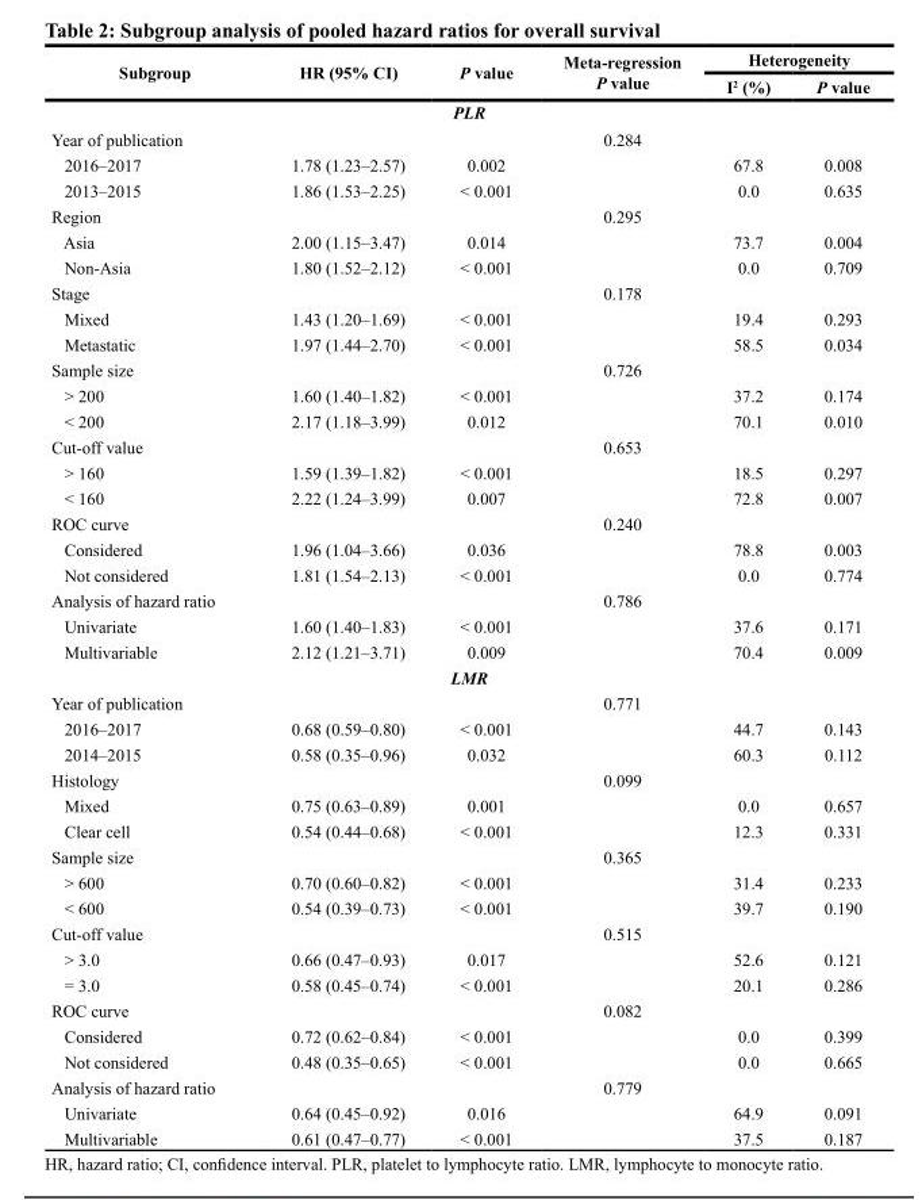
<table><thead><tr><td rowspan="2">Subgroup</td><td rowspan="2">HR (95% CI)</td><td rowspan="2">P value</td><td rowspan="2">Meta-regression P value</td><td colspan="2">Heterogeneity</td></tr><tr><td>I<sup>2</sup> (%)</td><td>P value</td></tr></thead><tbody><tr><td colspan="6">PLR</td></tr><tr><td>Year of publication</td><td></td><td></td><td>0.284</td><td></td><td></td></tr><tr><td>2016–2017</td><td>1.78 (1.23–2.57)</td><td>0.002</td><td></td><td>67.8</td><td>0.008</td></tr><tr><td>2013–2015</td><td>1.86 (1.53–2.25)</td><td>&lt; 0.001</td><td></td><td>0.0</td><td>0.635</td></tr><tr><td>Region</td><td></td><td></td><td>0.295</td><td></td><td></td></tr><tr><td>Asia</td><td>2.00 (1.15–3.47)</td><td>0.014</td><td></td><td>73.7</td><td>0.004</td></tr><tr><td>Non-Asia</td><td>1.80 (1.52–2.12)</td><td>&lt; 0.001</td><td></td><td>0.0</td><td>0.709</td></tr><tr><td>Stage</td><td></td><td></td><td>0.178</td><td></td><td></td></tr><tr><td>Mixed</td><td>1.43 (1.20–1.69)</td><td>&lt; 0.001</td><td></td><td>19.4</td><td>0.293</td></tr><tr><td>Metastatic</td><td>1.97 (1.44–2.70)</td><td>&lt; 0.001</td><td></td><td>58.5</td><td>0.034</td></tr><tr><td>Sample size</td><td></td><td></td><td>0.726</td><td></td><td></td></tr><tr><td>&gt; 200</td><td>1.60 (1.40–1.82)</td><td>&lt; 0.001</td><td></td><td>37.2</td><td>0.174</td></tr><tr><td>&lt; 200</td><td>2.17 (1.18–3.99)</td><td>0.012</td><td></td><td>70.1</td><td>0.010</td></tr><tr><td>Cut-off value</td><td></td><td></td><td>0.653</td><td></td><td></td></tr><tr><td>&gt; 160</td><td>1.59 (1.39–1.82)</td><td>&lt; 0.001</td><td></td><td>18.5</td><td>0.297</td></tr><tr><td>&lt; 160</td><td>2.22 (1.24–3.99)</td><td>0.007</td><td></td><td>72.8</td><td>0.007</td></tr><tr><td>ROC curve</td><td></td><td></td><td>0.240</td><td></td><td></td></tr><tr><td>Considered</td><td>1.96 (1.04–3.66)</td><td>0.036</td><td></td><td>78.8</td><td>0.003</td></tr><tr><td>Not considered</td><td>1.81 (1.54–2.13)</td><td>&lt; 0.001</td><td></td><td>0.0</td><td>0.774</td></tr><tr><td>Analysis of hazard ratio</td><td></td><td></td><td>0.786</td><td></td><td></td></tr><tr><td>Univariate</td><td>1.60 (1.40–1.83)</td><td>&lt; 0.001</td><td></td><td>37.6</td><td>0.171</td></tr><tr><td>Multivariable</td><td>2.12 (1.21–3.71)</td><td>0.009</td><td></td><td>70.4</td><td>0.009</td></tr><tr><td colspan="6">LMR</td></tr><tr><td>Year of publication</td><td></td><td></td><td>0.771</td><td></td><td></td></tr><tr><td>2016–2017</td><td>0.68 (0.59–0.80)</td><td>&lt; 0.001</td><td></td><td>44.7</td><td>0.143</td></tr><tr><td>2014–2015</td><td>0.58 (0.35–0.96)</td><td>0.032</td><td></td><td>60.3</td><td>0.112</td></tr><tr><td>Histology</td><td></td><td></td><td>0.099</td><td></td><td></td></tr><tr><td>Mixed</td><td>0.75 (0.63–0.89)</td><td>0.001</td><td></td><td>0.0</td><td>0.657</td></tr><tr><td>Clear cell</td><td>0.54 (0.44–0.68)</td><td>&lt; 0.001</td><td></td><td>12.3</td><td>0.331</td></tr><tr><td>Sample size</td><td></td><td></td><td>0.365</td><td></td><td></td></tr><tr><td>&gt; 600</td><td>0.70 (0.60–0.82)</td><td>&lt; 0.001</td><td></td><td>31.4</td><td>0.233</td></tr><tr><td>&lt; 600</td><td>0.54 (0.39–0.73)</td><td>&lt; 0.001</td><td></td><td>39.7</td><td>0.190</td></tr><tr><td>Cut-off value</td><td></td><td></td><td>0.515</td><td></td><td></td></tr><tr><td>&gt; 3.0</td><td>0.66 (0.47–0.93)</td><td>0.017</td><td></td><td>52.6</td><td>0.121</td></tr><tr><td>= 3.0</td><td>0.58 (0.45–0.74)</td><td>&lt; 0.001</td><td></td><td>20.1</td><td>0.286</td></tr><tr><td>ROC curve</td><td></td><td></td><td>0.082</td><td></td><td></td></tr><tr><td>Considered</td><td>0.72 (0.62–0.84)</td><td>&lt; 0.001</td><td></td><td>0.0</td><td>0.399</td></tr><tr><td>Not considered</td><td>0.48 (0.35–0.65)</td><td>&lt; 0.001</td><td></td><td>0.0</td><td>0.665</td></tr><tr><td>Analysis of hazard ratio</td><td></td><td></td><td>0.779</td><td></td><td></td></tr><tr><td>Univariate</td><td>0.64 (0.45–0.92)</td><td>0.016</td><td></td><td>64.9</td><td>0.091</td></tr><tr><td>Multivariable</td><td>0.61 (0.47–0.77)</td><td>&lt; 0.001</td><td></td><td>37.5</td><td>0.187</td></tr></tbody></table>